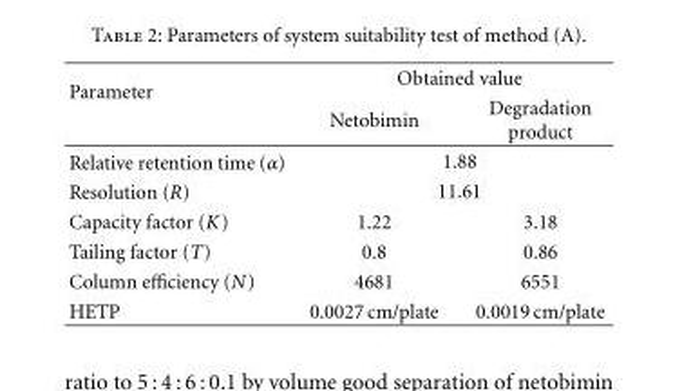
<table><thead><tr><td rowspan="2">Parameter</td><td colspan="2">Obtained value</td></tr><tr><td>Netobimin</td><td>Degradation product</td></tr></thead><tbody><tr><td>Relative retention time (α)</td><td colspan="2">1.88</td></tr><tr><td>Resolution (R)</td><td colspan="2">11.61</td></tr><tr><td>Capacity factor (K)</td><td>1.22</td><td>3.18</td></tr><tr><td>Tailing factor (T)</td><td>0.8</td><td>0.86</td></tr><tr><td>Column efficiency (N)</td><td>4681</td><td>6551</td></tr><tr><td>HETP</td><td>0.0027 cm/plate</td><td>0.0019 cm/plate</td></tr></tbody></table>